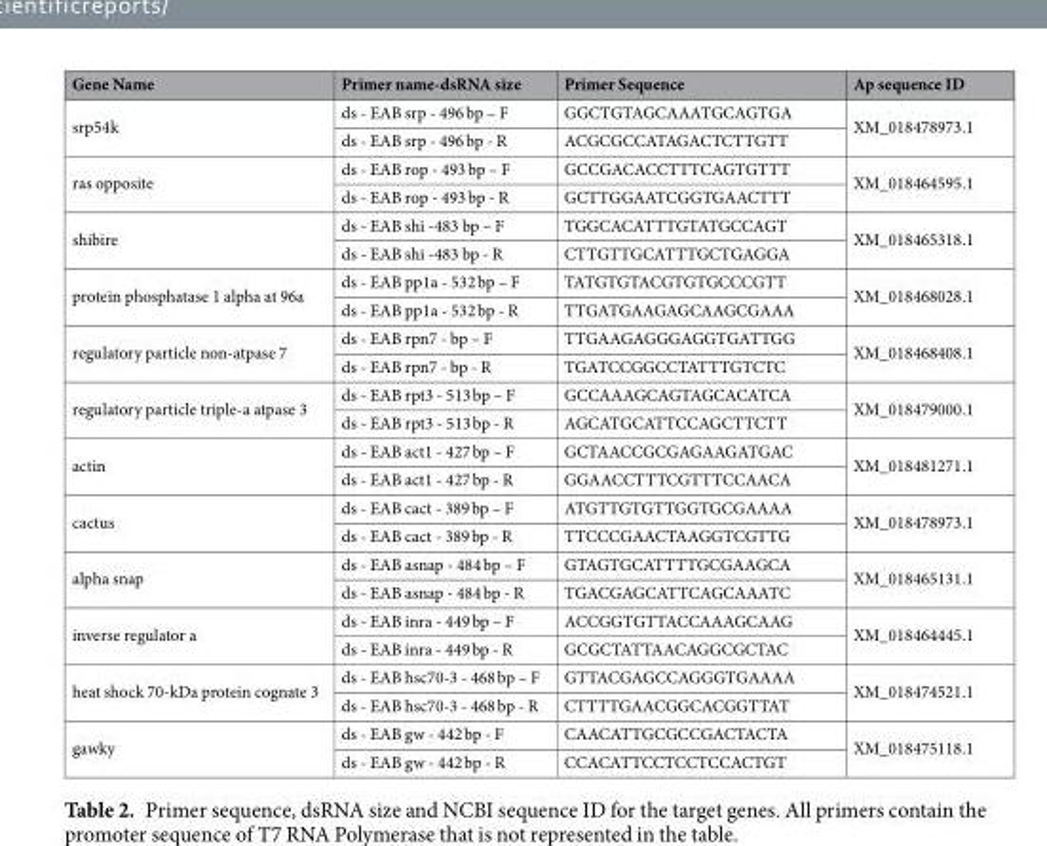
<table><thead><tr><td>Gene Name</td><td>Primer name-dsRNA size</td><td>Primer Sequence</td><td>Ap sequence ID</td></tr></thead><tbody><tr><td rowspan="2">srp54k</td><td>ds - EAB srp - 496 bp – F</td><td>GGCTGTAGCAAATGCAGTGA</td><td rowspan="2">XM_018478973.1</td></tr><tr><td>ds - EAB srp - 496 bp - R</td><td>ACGCGCCATAGACTCTTGTT</td></tr><tr><td rowspan="2">ras opposite</td><td>ds - EAB rop - 493 bp – F</td><td>GCCGACACCTTTCAGTGTTT</td><td rowspan="2">XM_018464595.1</td></tr><tr><td>ds - EAB rop - 493 bp - R</td><td>GCTTGGAATCGGTGAACTTT</td></tr><tr><td rowspan="2">shibire</td><td>ds - EAB shi -483 bp – F</td><td>TGGCACATTTGTATGCCAGT</td><td rowspan="2">XM_018465318.1</td></tr><tr><td>ds - EAB shi -483 bp - R</td><td>CTTGTTGCATTTGCTGAGGA</td></tr><tr><td rowspan="2">protein phosphatase 1 alpha at 96a</td><td>ds - EAB pp1a - 532 bp – F</td><td>TATGTGTACGTGTGCCCGTT</td><td rowspan="2">XM_018468028.1</td></tr><tr><td>ds - EAB pp1a - 532 bp - R</td><td>TTGATGAAGAGCAAGCGAAA</td></tr><tr><td rowspan="2">regulatory particle non-atpase 7</td><td>ds - EAB rpn7 - bp – F</td><td>TTGAAGAGGGAGGTGATTGG</td><td rowspan="2">XM_018468408.1</td></tr><tr><td>ds - EAB rpn7 - bp - R</td><td>TGATCCGGCCTATTTGTCTC</td></tr><tr><td rowspan="2">regulatory particle triple-a atpase 3</td><td>ds - EAB rpt3 - 513 bp – F</td><td>GCCAAAGCAGTAGCACATCA</td><td rowspan="2">XM_018479000.1</td></tr><tr><td>ds - EAB rpt3 - 513 bp - R</td><td>AGCATGCATTCCAGCTTCTT</td></tr><tr><td rowspan="2">actin</td><td>ds - EAB act1 - 427 bp – F</td><td>GCTAACCGCGAGAAGATGAC</td><td rowspan="2">XM_018481271.1</td></tr><tr><td>ds - EAB act1 - 427 bp - R</td><td>GGAACCTTTCGTTTCCAACA</td></tr><tr><td rowspan="2">cactus</td><td>ds - EAB cact - 389 bp – F</td><td>ATGTTGTGTTGGTGCGAAAA</td><td rowspan="2">XM_018478973.1</td></tr><tr><td>ds - EAB cact - 389 bp - R</td><td>TTCCCGAACTAAGGTCGTTG</td></tr><tr><td rowspan="2">alpha snap</td><td>ds - EAB asnap - 484 bp – F</td><td>GTAGTGCATTTTGCGAAGCA</td><td rowspan="2">XM_018465131.1</td></tr><tr><td>ds - EAB asnap - 484 bp - R</td><td>TGACGAGCATTCAGCAAATC</td></tr><tr><td rowspan="2">inverse regulator a</td><td>ds - EAB inra - 449 bp – F</td><td>ACCGGTGTTACCAAAGCAAG</td><td rowspan="2">XM_018464445.1</td></tr><tr><td>ds - EAB inra - 449 bp - R</td><td>GCGCTATTAACAGGCGCTAC</td></tr><tr><td rowspan="2">heat shock 70-kDa protein cognate 3</td><td>ds - EAB hsc70-3 - 468 bp – F</td><td>GTTACGAGCCAGGGTGAAAA</td><td rowspan="2">XM_018474521.1</td></tr><tr><td>ds - EAB hsc70-3 - 468 bp - R</td><td>CTTTTGAACGGCACGGTTAT</td></tr><tr><td rowspan="2">gawky</td><td>ds - EAB gw - 442 bp - F</td><td>CAACATTGCGCCGACTACTA</td><td rowspan="2">XM_018475118.1</td></tr><tr><td>ds - EAB gw - 442 bp - R</td><td>CCACATTCCTCCTCCACTGT</td></tr></tbody></table>